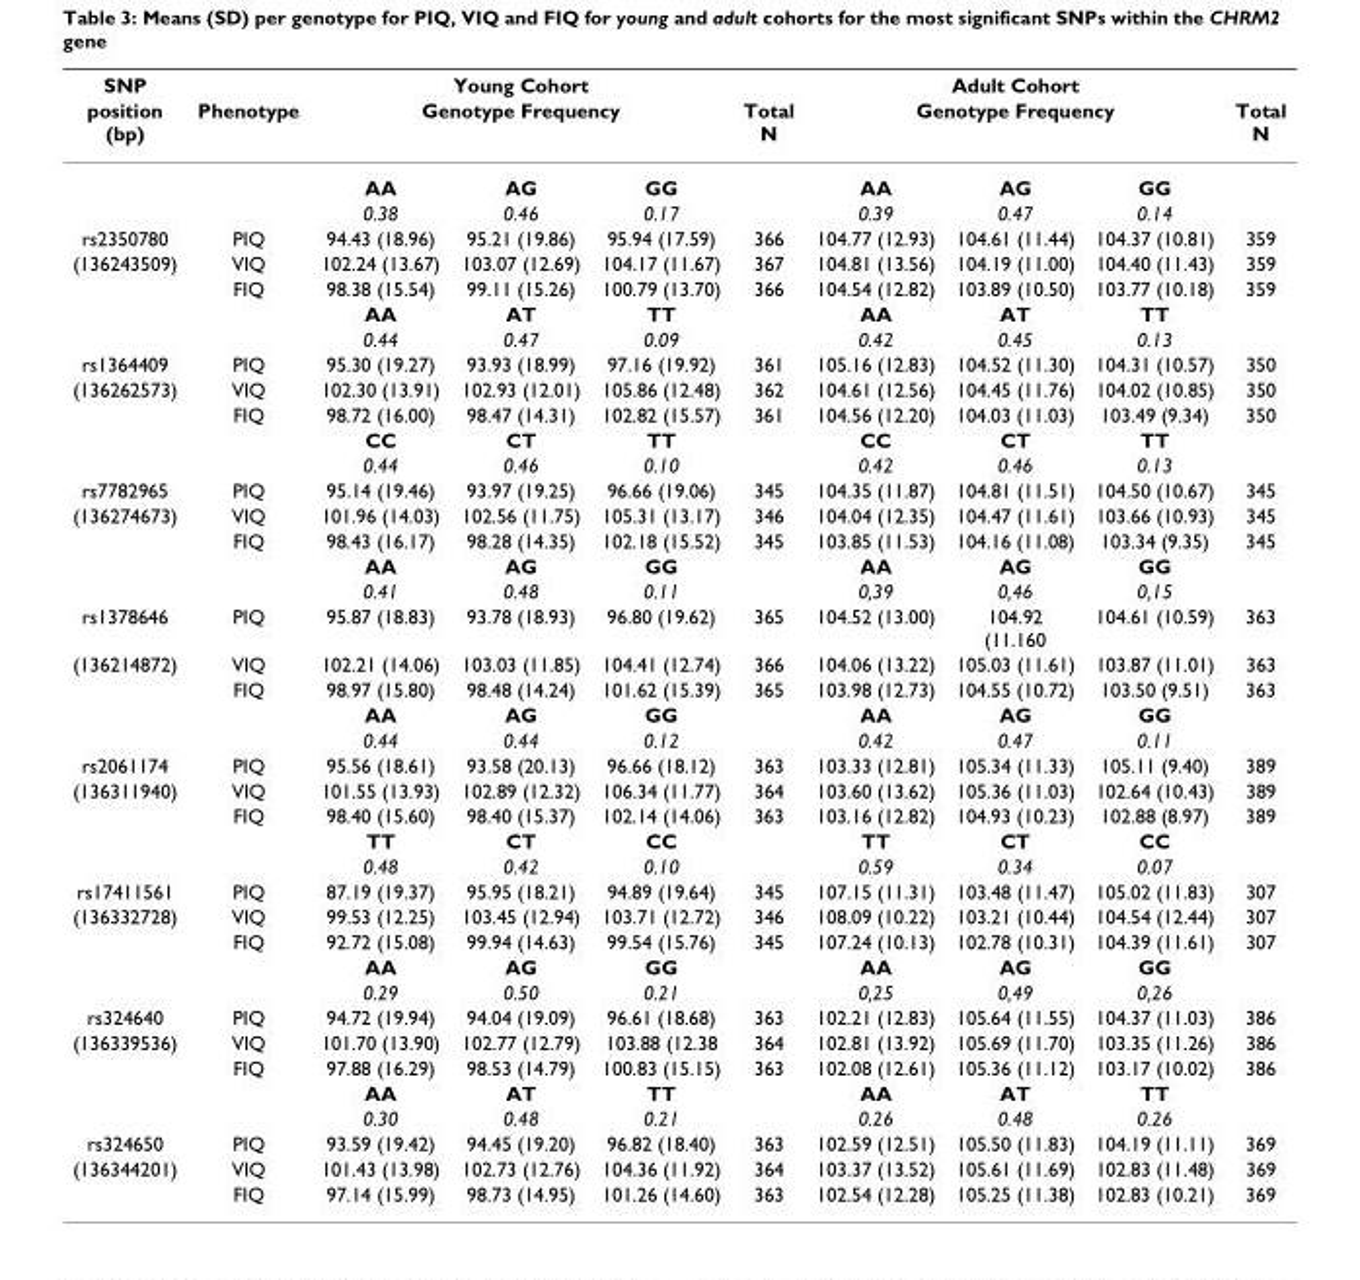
<table><thead><tr><td rowspan="3">SNP position (bp)</td><td rowspan="3">Phenotype</td><td rowspan="2" colspan="3">Young Cohort Genotype Frequency</td><td rowspan="3">Total N</td><td rowspan="2" colspan="3">Adult Cohort Genotype Frequency</td><td rowspan="3">Total N</td></tr><tr></tr><tr><td>AA</td><td>AG</td><td>GG</td><td>AA</td><td>AG</td><td>GG</td></tr></thead><tbody><tr><td></td><td></td><td>0.38</td><td>0.46</td><td>0.17</td><td></td><td>0.39</td><td>0.47</td><td>0.14</td><td></td></tr><tr><td>rs2350780</td><td>PIQ</td><td>94.43 (18.96)</td><td>95.21 (19.86)</td><td>95.94 (17.59)</td><td>366</td><td>104.77 (12.93)</td><td>104.61 (11.44)</td><td>104.37 (10.81)</td><td>359</td></tr><tr><td rowspan="4">(136243509)</td><td>VIQ</td><td>102.24 (13.67)</td><td>103.07 (12.69)</td><td>104.17 (11.67)</td><td>367</td><td>104.81 (13.56)</td><td>104.19 (11.00)</td><td>104.40 (11.43)</td><td>359</td></tr><tr><td>FIQ</td><td>98.38 (15.54)</td><td>99.11 (15.26)</td><td>100.79 (13.70)</td><td>366</td><td>104.54 (12.82)</td><td>103.89 (10.50)</td><td>103.77 (10.18)</td><td>359</td></tr><tr><td></td><td>AA</td><td>AT</td><td>TT</td><td></td><td>AA</td><td>AT</td><td>TT</td><td></td></tr><tr><td></td><td>0.44</td><td>0.47</td><td>0.09</td><td></td><td>0.42</td><td>0.45</td><td>0.13</td><td></td></tr><tr><td>rs1364409</td><td>PIQ</td><td>95.30 (19.27)</td><td>93.93 (18.99)</td><td>97.16 (19.92)</td><td>361</td><td>105.16 (12.83)</td><td>104.52 (11.30)</td><td>104.31 (10.57)</td><td>350</td></tr><tr><td rowspan="4">(136262573)</td><td>VIQ</td><td>102.30 (13.91)</td><td>102.93 (12.01)</td><td>105.86 (12.48)</td><td>362</td><td>104.61 (12.56)</td><td>104.45 (11.76)</td><td>104.02 (10.85)</td><td>350</td></tr><tr><td>FIQ</td><td>98.72 (16.00)</td><td>98.47 (14.31)</td><td>102.82 (15.57)</td><td>361</td><td>104.56 (12.20)</td><td>104.03 (11.03)</td><td>103.49 (9.34)</td><td>350</td></tr><tr><td></td><td>CC</td><td>CT</td><td>TT</td><td></td><td>CC</td><td>CT</td><td>TT</td><td></td></tr><tr><td></td><td>0.44</td><td>0.46</td><td>0.10</td><td></td><td>0.42</td><td>0.46</td><td>0.13</td><td></td></tr><tr><td>rs7782965</td><td>PIQ</td><td>95.14 (19.46)</td><td>93.97 (19.25)</td><td>96.66 (19.06)</td><td>345</td><td>104.35 (11.87)</td><td>104.81 (11.51)</td><td>104.50 (10.67)</td><td>345</td></tr><tr><td rowspan="4">(136274673)</td><td>VIQ</td><td>101.96 (14.03)</td><td>102.56 (11.75)</td><td>105.31 (13.17)</td><td>346</td><td>104.04 (12.35)</td><td>104.47 (11.61)</td><td>103.66 (10.93)</td><td>345</td></tr><tr><td>FIQ</td><td>98.43 (16.17)</td><td>98.28 (14.35)</td><td>102.18 (15.52)</td><td>345</td><td>103.85 (11.53)</td><td>104.16 (11.08)</td><td>103.34 (9.35)</td><td>345</td></tr><tr><td></td><td>AA</td><td>AG</td><td>GG</td><td></td><td>AA</td><td>AG</td><td>GG</td><td></td></tr><tr><td></td><td>0.41</td><td>0.48</td><td>0.11</td><td></td><td>0,39</td><td>0,46</td><td>0,15</td><td></td></tr><tr><td>rs1378646</td><td>PIQ</td><td>95.87 (18.83)</td><td>93.78 (18.93)</td><td>96.80 (19.62)</td><td>365</td><td>104.52 (13.00)</td><td>104.92 (11.160</td><td>104.61 (10.59)</td><td>363</td></tr><tr><td rowspan="4">(136214872)</td><td>VIQ</td><td>102.21 (14.06)</td><td>103.03 (11.85)</td><td>104.41 (12.74)</td><td>366</td><td>104.06 (13.22)</td><td>105.03 (11.61)</td><td>103.87 (11.01)</td><td>363</td></tr><tr><td>FIQ</td><td>98.97 (15.80)</td><td>98.48 (14.24)</td><td>101.62 (15.39)</td><td>365</td><td>103.98 (12.73)</td><td>104.55 (10.72)</td><td>103.50 (9.51)</td><td>363</td></tr><tr><td></td><td>AA</td><td>AG</td><td>GG</td><td></td><td>AA</td><td>AG</td><td>GG</td><td></td></tr><tr><td></td><td>0.44</td><td>0.44</td><td>0.12</td><td></td><td>0.42</td><td>0.47</td><td>0.11</td><td></td></tr><tr><td>rs2061174</td><td>PIQ</td><td>95.56 (18.61)</td><td>93.58 (20.13)</td><td>96.66 (18.12)</td><td>363</td><td>103.33 (12.81)</td><td>105.34 (11.33)</td><td>105.11 (9.40)</td><td>389</td></tr><tr><td rowspan="4">(136311940)</td><td>VIQ</td><td>101.55 (13.93)</td><td>102.89 (12.32)</td><td>106.34 (11.77)</td><td>364</td><td>103.60 (13.62)</td><td>105.36 (11.03)</td><td>102.64 (10.43)</td><td>389</td></tr><tr><td>FIQ</td><td>98.40 (15.60)</td><td>98.40 (15.37)</td><td>102.14 (14.06)</td><td>363</td><td>103.16 (12.82)</td><td>104.93 (10.23)</td><td>102.88 (8.97)</td><td>389</td></tr><tr><td></td><td>TT</td><td>CT</td><td>CC</td><td></td><td>TT</td><td>CT</td><td>CC</td><td></td></tr><tr><td></td><td>0.48</td><td>0.42</td><td>0.10</td><td></td><td>0.59</td><td>0.34</td><td>0.07</td><td></td></tr><tr><td>rs17411561</td><td>PIQ</td><td>87.19 (19.37)</td><td>95.95 (18.21)</td><td>94.89 (19.64)</td><td>345</td><td>107.15 (11.31)</td><td>103.48 (11.47)</td><td>105.02 (11.83)</td><td>307</td></tr><tr><td rowspan="4">(136332728)</td><td>VIQ</td><td>99.53 (12.25)</td><td>103.45 (12.94)</td><td>103.71 (12.72)</td><td>346</td><td>108.09 (10.22)</td><td>103.21 (10.44)</td><td>104.54 (12.44)</td><td>307</td></tr><tr><td>FIQ</td><td>92.72 (15.08)</td><td>99.94 (14.63)</td><td>99.54 (15.76)</td><td>345</td><td>107.24 (10.13)</td><td>102.78 (10.31)</td><td>104.39 (11.61)</td><td>307</td></tr><tr><td></td><td>AA</td><td>AG</td><td>GG</td><td></td><td>AA</td><td>AG</td><td>GG</td><td></td></tr><tr><td></td><td>0.29</td><td>0.50</td><td>0.21</td><td></td><td>0,25</td><td>0,49</td><td>0,26</td><td></td></tr><tr><td>rs324640</td><td>PIQ</td><td>94.72 (19.94)</td><td>94.04 (19.09)</td><td>96.61 (18.68)</td><td>363</td><td>102.21 (12.83)</td><td>105.64 (11.55)</td><td>104.37 (11.03)</td><td>386</td></tr><tr><td rowspan="4">(136339536)</td><td>VIQ</td><td>101.70 (13.90)</td><td>102.77 (12.79)</td><td>103.88 (12.38</td><td>364</td><td>102.81 (13.92)</td><td>105.69 (11.70)</td><td>103.35 (11.26)</td><td>386</td></tr><tr><td>FIQ</td><td>97.88 (16.29)</td><td>98.53 (14.79)</td><td>100.83 (15.15)</td><td>363</td><td>102.08 (12.61)</td><td>105.36 (11.12)</td><td>103.17 (10.02)</td><td>386</td></tr><tr><td></td><td>AA</td><td>AT</td><td>TT</td><td></td><td>AA</td><td>AT</td><td>TT</td><td></td></tr><tr><td></td><td>0.30</td><td>0.48</td><td>0.21</td><td></td><td>0.26</td><td>0.48</td><td>0.26</td><td></td></tr><tr><td>rs324650</td><td>PIQ</td><td>93.59 (19.42)</td><td>94.45 (19.20)</td><td>96.82 (18.40)</td><td>363</td><td>102.59 (12.51)</td><td>105.50 (11.83)</td><td>104.19 (11.11)</td><td>369</td></tr><tr><td rowspan="2">(136344201)</td><td>VIQ</td><td>101.43 (13.98)</td><td>102.73 (12.76)</td><td>104.36 (11.92)</td><td>364</td><td>103.37 (13.52)</td><td>105.61 (11.69)</td><td>102.83 (11.48)</td><td>369</td></tr><tr><td>FIQ</td><td>97.14 (15.99)</td><td>98.73 (14.95)</td><td>101.26 (14.60)</td><td>363</td><td>102.54 (12.28)</td><td>105.25 (11.38)</td><td>102.83 (10.21)</td><td>369</td></tr></tbody></table>